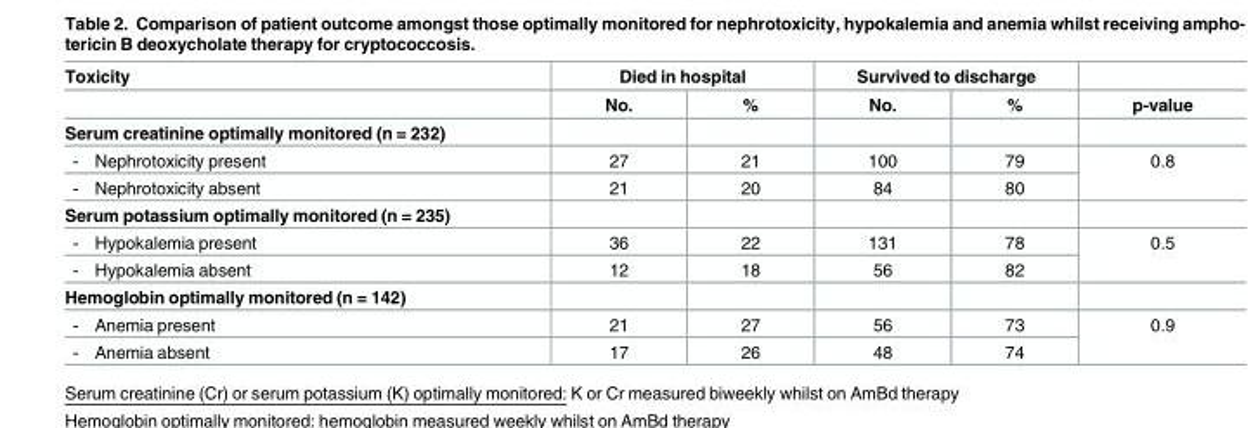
<table><thead><tr><td rowspan="2">Toxicity</td><td colspan="2">Died in hospital</td><td colspan="2">Survived to discharge</td><td rowspan="2">p-value</td></tr><tr><td>No.</td><td>%</td><td>No.</td><td>%</td></tr></thead><tbody><tr><td colspan="6">Serum creatinine optimally monitored (n = 232)</td></tr><tr><td>- Nephrotoxicity present</td><td>27</td><td>21</td><td>100</td><td>79</td><td rowspan="2">0.8</td></tr><tr><td>- Nephrotoxicity absent</td><td>21</td><td>20</td><td>84</td><td>80</td></tr><tr><td colspan="6">Serum potassium optimally monitored (n = 235)</td></tr><tr><td>- Hypokalemia present</td><td>36</td><td>22</td><td>131</td><td>78</td><td rowspan="2">0.5</td></tr><tr><td>- Hypokalemia absent</td><td>12</td><td>18</td><td>56</td><td>82</td></tr><tr><td colspan="6">Hemoglobin optimally monitored (n = 142)</td></tr><tr><td>- Anemia present</td><td>21</td><td>27</td><td>56</td><td>73</td><td rowspan="2">0.9</td></tr><tr><td>- Anemia absent</td><td>17</td><td>26</td><td>48</td><td>74</td></tr></tbody></table>